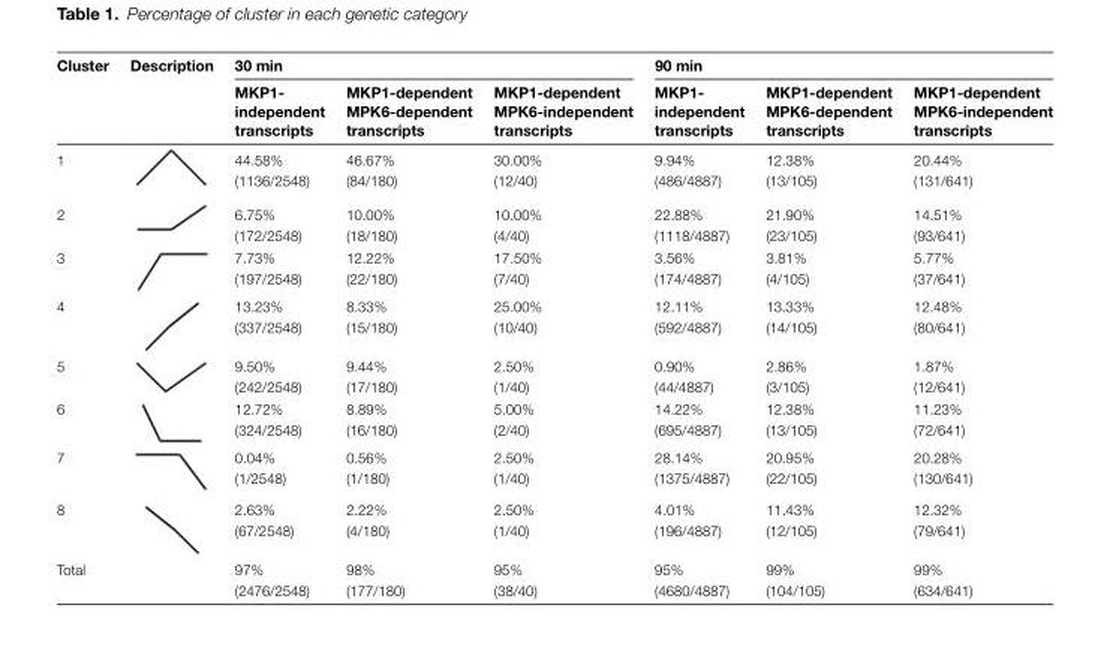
<table><thead><tr><td rowspan="2">Cluster</td><td rowspan="2">Description</td><td colspan="3">30 min</td><td colspan="3">90 min</td></tr><tr><td>MKP1- independent transcripts</td><td>MKP1-dependent MPK6-dependent transcripts</td><td>MKP1-dependent MPK6-independent transcripts</td><td>MKP1- independent transcripts</td><td>MKP1-dependent MPK6-dependent transcripts</td><td>MKP1-dependent MPK6-independent transcripts</td></tr></thead><tbody><tr><td>1</td><td></td><td>44.58% (1136/2548)</td><td>46.67% (84/180)</td><td>30.00% (12/40)</td><td>9.94% (486/4887)</td><td>12.38% (13/105)</td><td>20.44% (131/641)</td></tr><tr><td>2</td><td></td><td>6.75% (172/2548)</td><td>10.00% (18/180)</td><td>10.00% (4/40)</td><td>22.88% (1118/4887)</td><td>21.90% (23/105)</td><td>14.51% (93/641)</td></tr><tr><td>3</td><td></td><td>7.73% (197/2548)</td><td>12.22% (22/180)</td><td>17.50% (7/40)</td><td>3.56% (174/4887)</td><td>3.81% (4/105)</td><td>5.77% (37/641)</td></tr><tr><td>4</td><td></td><td>13.23% (337/2548)</td><td>8.33% (15/180)</td><td>25.00% (10/40)</td><td>12.11% (592/4887)</td><td>13.33% (14/105)</td><td>12.48% (80/641)</td></tr><tr><td>5</td><td></td><td>9.50% (242/2548)</td><td>9.44% (17/180)</td><td>2.50% (1/40)</td><td>0.90% (44/4887)</td><td>2.86% (3/105)</td><td>1.87% (12/641)</td></tr><tr><td>6</td><td></td><td>12.72% (324/2548)</td><td>8.89% (16/180)</td><td>5.00% (2/40)</td><td>14.22% (695/4887)</td><td>12.38% (13/105)</td><td>11.23% (72/641)</td></tr><tr><td>7</td><td></td><td>0.04% (1/2548)</td><td>0.56% (1/180)</td><td>2.50% (1/40)</td><td>28.14% (1375/4887)</td><td>20.95% (22/105)</td><td>20.28% (130/641)</td></tr><tr><td>8</td><td></td><td>2.63% (67/2548)</td><td>2.22% (4/180)</td><td>2.50% (1/40)</td><td>4.01% (196/4887)</td><td>11.43% (12/105)</td><td>12.32% (79/641)</td></tr><tr><td>Total</td><td></td><td>97% (2476/2548)</td><td>98% (177/180)</td><td>95% (38/40)</td><td>95% (4680/4887)</td><td>99% (104/105)</td><td>99% (634/641)</td></tr></tbody></table>